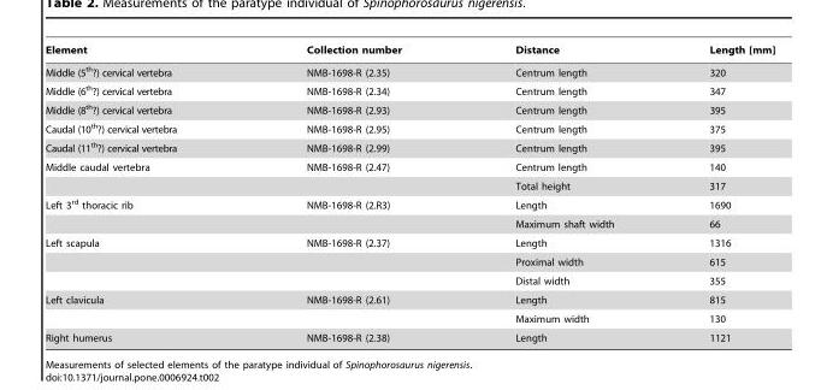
<table><thead><tr><td>Element</td><td>Collection number</td><td>Distance</td><td>Length [mm]</td></tr></thead><tbody><tr><td>Middle (5<sup>th</sup>?) cervical vertebra</td><td>NMB-1698-R (2.35)</td><td>Centrum length</td><td>320</td></tr><tr><td>Middle (6<sup>th</sup>?) cervical vertebra</td><td>NMB-1698-R (2.34)</td><td>Centrum length</td><td>347</td></tr><tr><td>Middle (8<sup>th</sup>?) cervical vertebra</td><td>NMB-1698-R (2.93)</td><td>Centrum length</td><td>395</td></tr><tr><td>Caudal (10<sup>th</sup>?) cervical vertebra</td><td>NMB-1698-R (2.95)</td><td>Centrum length</td><td>375</td></tr><tr><td>Caudal (11<sup>th</sup>?) cervical vertebra</td><td>NMB-1698-R (2.99)</td><td>Centrum length</td><td>395</td></tr><tr><td rowspan="2">Middle caudal vertebra</td><td>NMB-1698-R (2.47)</td><td>Centrum length</td><td>140</td></tr><tr><td></td><td>Total height</td><td>317</td></tr><tr><td rowspan="2">Left 3<sup>rd</sup> thoracic rib</td><td>NMB-1698-R (2.R3)</td><td>Length</td><td>1690</td></tr><tr><td></td><td>Maximum shaft width</td><td>66</td></tr><tr><td rowspan="3">Left scapula</td><td>NMB-1698-R (2.37)</td><td>Length</td><td>1316</td></tr><tr><td></td><td>Proximal width</td><td>615</td></tr><tr><td></td><td>Distal width</td><td>355</td></tr><tr><td rowspan="2">Left clavicula</td><td>NMB-1698-R (2.61)</td><td>Length</td><td>815</td></tr><tr><td></td><td>Maximum width</td><td>130</td></tr><tr><td>Right humerus</td><td>NMB-1698-R (2.38)</td><td>Length</td><td>1121</td></tr></tbody></table>